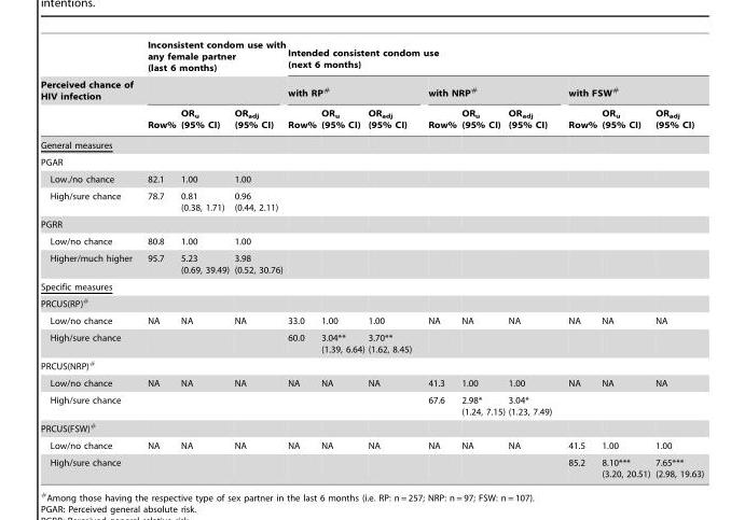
<table><thead><tr><td rowspan="3">Perceived chance of HIV infection</td><td colspan="3">Inconsistent condom use with any female partner (last 6 months)</td><td colspan="9">Intended consistent condom use (next 6 months)</td></tr><tr><td rowspan="2">Row%</td><td rowspan="2">OR<sub>u</sub> (95% CI)</td><td rowspan="2">OR<sub>adj</sub> (95% CI)</td><td colspan="3">with RP#</td><td colspan="3">with NRP#</td><td colspan="3">with FSW#</td></tr><tr><td>Row%</td><td>OR<sub>u</sub> (95% CI)</td><td>OR<sub>adj</sub> (95% CI)</td><td>Row%</td><td>OR<sub>u</sub> (95% CI)</td><td>OR<sub>adj</sub> (95% CI)</td><td>Row%</td><td>OR<sub>u</sub> (95% CI)</td><td>OR<sub>adj</sub> (95% CI)</td></tr></thead><tbody><tr><td colspan="13">General measures</td></tr><tr><td colspan="13">PGAR</td></tr><tr><td>Low./no chance</td><td>82.1</td><td>1.00</td><td>1.00</td><td></td><td></td><td></td><td></td><td></td><td></td><td></td><td></td><td></td></tr><tr><td>High/sure chance</td><td>78.7</td><td>0.81 (0.38, 1.71)</td><td>0.96 (0.44, 2.11)</td><td></td><td></td><td></td><td></td><td></td><td></td><td></td><td></td><td></td></tr><tr><td colspan="13">PGRR</td></tr><tr><td>Low/no chance</td><td>80.8</td><td>1.00</td><td>1.00</td><td></td><td></td><td></td><td></td><td></td><td></td><td></td><td></td><td></td></tr><tr><td>Higher/much higher</td><td>95.7</td><td>5.23 (0.69, 39.49)</td><td>3.98 (0.52, 30.76)</td><td></td><td></td><td></td><td></td><td></td><td></td><td></td><td></td><td></td></tr><tr><td colspan="13">Specific measures</td></tr><tr><td colspan="13">PRCUS(RP)#</td></tr><tr><td>Low/no chance</td><td>NA</td><td>NA</td><td>NA</td><td>33.0</td><td>1.00</td><td>1.00</td><td>NA</td><td>NA</td><td>NA</td><td>NA</td><td>NA</td><td>NA</td></tr><tr><td>High/sure chance</td><td></td><td></td><td></td><td>60.0</td><td>3.04** (1.39, 6.64)</td><td>3.70** (1.62, 8.45)</td><td></td><td></td><td></td><td></td><td></td><td></td></tr><tr><td colspan="13">PRCUS(NRP)#</td></tr><tr><td>Low/no chance</td><td>NA</td><td>NA</td><td>NA</td><td>NA</td><td>NA</td><td>NA</td><td>41.3</td><td>1.00</td><td>1.00</td><td>NA</td><td>NA</td><td>NA</td></tr><tr><td>High/sure chance</td><td></td><td></td><td></td><td></td><td></td><td></td><td>67.6</td><td>2.98* (1.24, 7.15)</td><td>3.04* (1.23, 7.49)</td><td></td><td></td><td></td></tr><tr><td colspan="13">PRCUS(FSW)#</td></tr><tr><td>Low/no chance</td><td>NA</td><td>NA</td><td>NA</td><td>NA</td><td>NA</td><td>NA</td><td>NA</td><td>NA</td><td>NA</td><td>41.5</td><td>1.00</td><td>1.00</td></tr><tr><td>High/sure chance</td><td></td><td></td><td></td><td></td><td></td><td></td><td></td><td></td><td></td><td>85.2</td><td>8.10*** (3.20, 20.51)</td><td>7.65*** (2.98, 19.63)</td></tr></tbody></table>